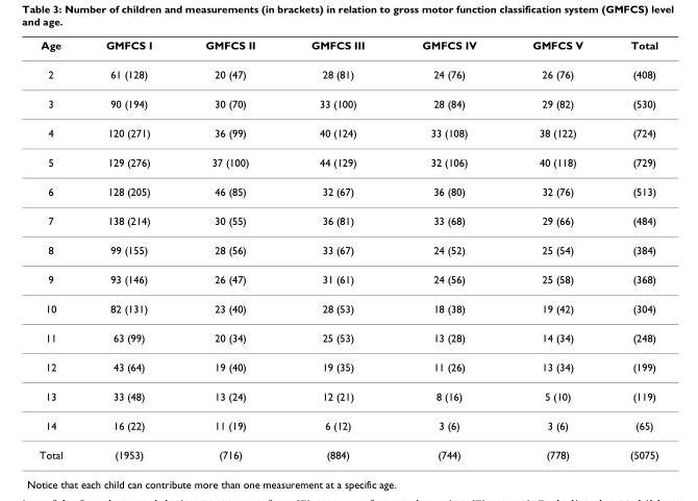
<table><thead><tr><td>Age</td><td>GMFCS I</td><td>GMFCS II</td><td>GMFCS III</td><td>GMFCS IV</td><td>GMFCS V</td><td>Total</td></tr></thead><tbody><tr><td>2</td><td>61 (128)</td><td>20 (47)</td><td>28 (81)</td><td>24 (76)</td><td>26 (76)</td><td>(408)</td></tr><tr><td>3</td><td>90 (194)</td><td>30 (70)</td><td>33 (100)</td><td>28 (84)</td><td>29 (82)</td><td>(530)</td></tr><tr><td>4</td><td>120 (271)</td><td>36 (99)</td><td>40 (124)</td><td>33 (108)</td><td>38 (122)</td><td>(724)</td></tr><tr><td>5</td><td>129 (276)</td><td>37 (100)</td><td>44 (129)</td><td>32 (106)</td><td>40 (118)</td><td>(729)</td></tr><tr><td>6</td><td>128 (205)</td><td>46 (85)</td><td>32 (67)</td><td>36 (80)</td><td>32 (76)</td><td>(513)</td></tr><tr><td>7</td><td>138 (214)</td><td>30 (55)</td><td>36 (81)</td><td>33 (68)</td><td>29 (66)</td><td>(484)</td></tr><tr><td>8</td><td>99 (155)</td><td>28 (56)</td><td>33 (67)</td><td>24 (52)</td><td>25 (54)</td><td>(384)</td></tr><tr><td>9</td><td>93 (146)</td><td>26 (47)</td><td>31 (61)</td><td>24 (56)</td><td>25 (58)</td><td>(368)</td></tr><tr><td>10</td><td>82 (131)</td><td>23 (40)</td><td>28 (53)</td><td>18 (38)</td><td>19 (42)</td><td>(304)</td></tr><tr><td>11</td><td>63 (99)</td><td>20 (34)</td><td>25 (53)</td><td>13 (28)</td><td>14 (34)</td><td>(248)</td></tr><tr><td>12</td><td>43 (64)</td><td>19 (40)</td><td>19 (35)</td><td>11 (26)</td><td>13 (34)</td><td>(199)</td></tr><tr><td>13</td><td>33 (48)</td><td>13 (24)</td><td>12 (21)</td><td>8 (16)</td><td>5 (10)</td><td>(119)</td></tr><tr><td>14</td><td>16 (22)</td><td>11 (19)</td><td>6 (12)</td><td>3 (6)</td><td>3 (6)</td><td>(65)</td></tr><tr><td>Total</td><td>(1953)</td><td>(716)</td><td>(884)</td><td>(744)</td><td>(778)</td><td>(5075)</td></tr></tbody></table>